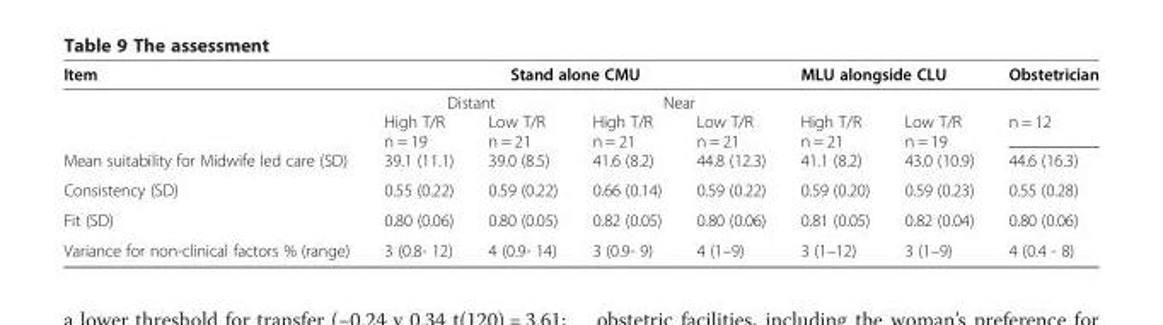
<table><thead><tr><td rowspan="4">Item</td><td colspan="4">Stand alone CMU</td><td colspan="2">MLU alongside CLU</td><td rowspan="4">Obstetrician n = 12</td></tr><tr><td colspan="2">Distant</td><td colspan="2">Near</td><td rowspan="3">High T/R n = 21</td><td rowspan="3">Low T/R n = 19</td></tr><tr><td rowspan="2">High T/R n = 19</td><td rowspan="2">Low T/R n = 21</td><td rowspan="2">High T/R n = 21</td><td rowspan="2">Low T/R n = 21</td></tr><tr></tr></thead><tbody><tr><td>Mean suitability for Midwife led care (SD)</td><td>39.1 (11.1)</td><td>39.0 (8.5)</td><td>41.6 (8.2)</td><td>44.8 (12.3)</td><td>41.1 (8.2)</td><td>43.0 (10.9)</td><td>44.6 (16.3)</td></tr><tr><td>Consistency (SD)</td><td>0.55 (0.22)</td><td>0.59 (0.22)</td><td>0.66 (0.14)</td><td>0.59 (0.22)</td><td>0.59 (0.20)</td><td>0.59 (0.23)</td><td>0.55 (0.28)</td></tr><tr><td>Fit (SD)</td><td>0.80 (0.06)</td><td>0.80 (0.05)</td><td>0.82 (0.05)</td><td>0.80 (0.06)</td><td>0.81 (0.05)</td><td>0.82 (0.04)</td><td>0.80 (0.06)</td></tr><tr><td>Variance for non-clinical factors % (range)</td><td>3 (0.8- 12)</td><td>4 (0.9- 14)</td><td>3 (0.9- 9)</td><td>4 (1–9)</td><td>3 (1–12)</td><td>3 (1–9)</td><td>4 (0.4 - 8)</td></tr></tbody></table>